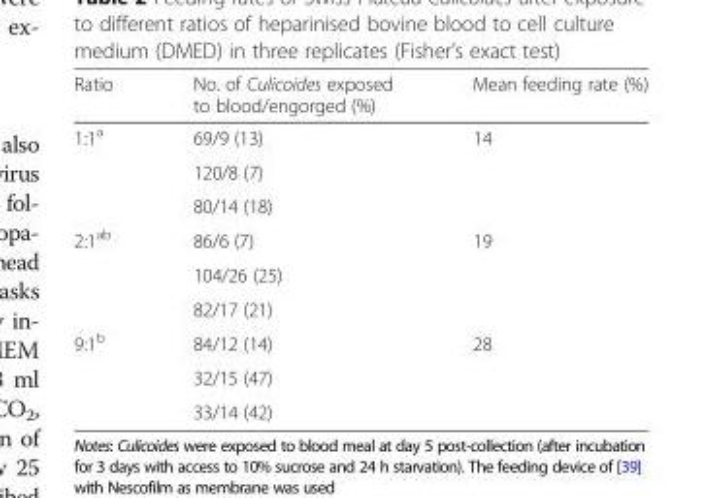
<table><thead><tr><td>Ratio</td><td>No. of Culicoides exposed to blood/engorged (%)</td><td>Mean feeding rate (%)</td></tr></thead><tbody><tr><td rowspan="3">1:1<sup>a</sup></td><td>69/9 (13)</td><td rowspan="3">14</td></tr><tr><td>120/8 (7)</td></tr><tr><td>80/14 (18)</td></tr><tr><td rowspan="3">2:1<sup>ab</sup></td><td>86/6 (7)</td><td rowspan="3">19</td></tr><tr><td>104/26 (25)</td></tr><tr><td>82/17 (21)</td></tr><tr><td rowspan="3">9:1<sup>b</sup></td><td>84/12 (14)</td><td rowspan="3">28</td></tr><tr><td>32/15 (47)</td></tr><tr><td>33/14 (42)</td></tr></tbody></table>